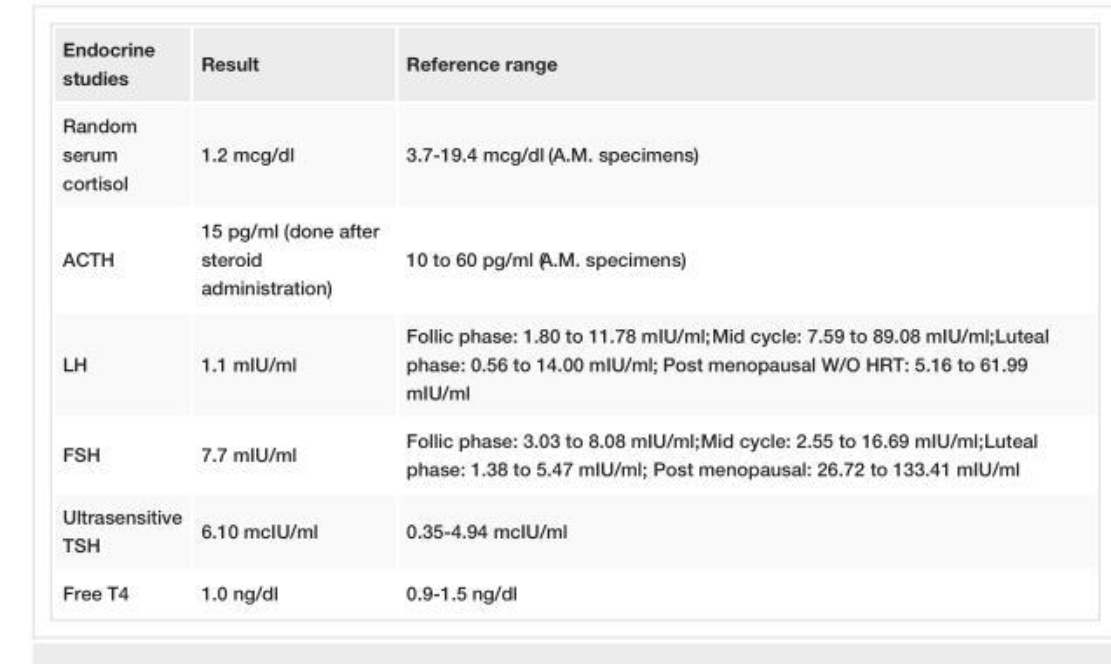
<table><tbody><tr><td>studies</td><td>Result</td><td>Reference range</td></tr><tr><td>Random serum cortisol</td><td>1.2 mcg/dl</td><td>3.7-19.4 mcg/dl (A.M. specimens)</td></tr><tr><td>ACTH</td><td>15 pg/ml (done after steroid administration)</td><td>10 to 60 pg/ml (A.M. specimens)</td></tr><tr><td>LH</td><td>1.1 mIU/ml</td><td>Follic phase: 1.80 to 11.78 mIU/ml; Mid cycle: 7.59 to 89.08 mIU/ml; Luteal phase: 0.56 to 14.00 mIU/ml; Post menopausal W/O HRT: 5.16 to 61.99 mIU/ml</td></tr><tr><td>FSH</td><td>7.7 mIU/ml</td><td>Follic phase: 3.03 to 8.08 mIU/ml; Mid cycle: 2.55 to 16.69 mIU/ml; Luteal phase: 1.38 to 5.47 mIU/ml; Post menopausal: 26.72 to 133.41 mIU/ml</td></tr><tr><td>Ultrasensitive TSH</td><td>6.10 mcIU/ml</td><td>0.35-4.94 mcIU/ml</td></tr><tr><td>Free T4</td><td>1.0 ng/dl</td><td>0.9-1.5 ng/dl</td></tr></tbody></table>